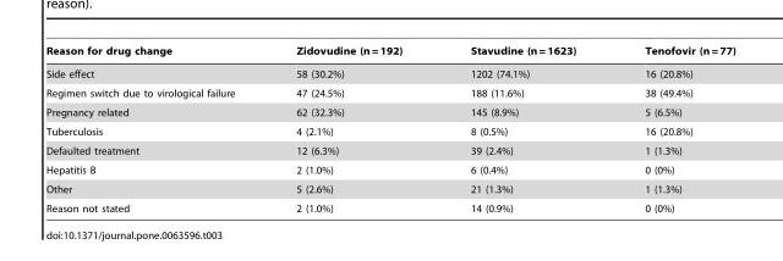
<table><thead><tr><td>Reason for drug change</td><td>Zidovudine (n = 192)</td><td>Stavudine (n = 1623)</td><td>Tenofovir (n = 77)</td></tr></thead><tbody><tr><td>Side effect</td><td>58 (30.2%)</td><td>1202 (74.1%)</td><td>16 (20.8%)</td></tr><tr><td>Regimen switch due to virological failure</td><td>47 (24.5%)</td><td>188 (11.6%)</td><td>38 (49.4%)</td></tr><tr><td>Pregnancy related</td><td>62 (32.3%)</td><td>145 (8.9%)</td><td>5 (6.5%)</td></tr><tr><td>Tuberculosis</td><td>4 (2.1%)</td><td>8 (0.5%)</td><td>16 (20.8%)</td></tr><tr><td>Defaulted treatment</td><td>12 (6.3%)</td><td>39 (2.4%)</td><td>1 (1.3%)</td></tr><tr><td>Hepatitis B</td><td>2 (1.0%)</td><td>6 (0.4%)</td><td>0 (0%)</td></tr><tr><td>Other</td><td>5 (2.6%)</td><td>21 (1.3%)</td><td>1 (1.3%)</td></tr><tr><td>Reason not stated</td><td>2 (1.0%)</td><td>14 (0.9%)</td><td>0 (0%)</td></tr></tbody></table>